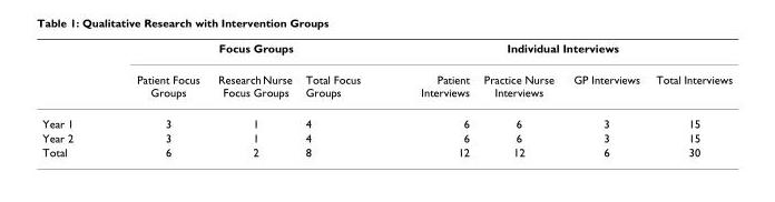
<table><thead><tr><td rowspan="2"></td><td colspan="3">Focus Groups</td><td colspan="4">Individual Interviews</td></tr><tr><td>Patient Focus Groups</td><td>Research Nurse Focus Groups</td><td>Total Focus Groups</td><td>Patient Interviews</td><td>Practice Nurse Interviews</td><td>GP Interviews</td><td>Total Interviews</td></tr></thead><tbody><tr><td>Year 1</td><td>3</td><td>1</td><td>4</td><td>6</td><td>6</td><td>3</td><td>15</td></tr><tr><td>Year 2</td><td>3</td><td>1</td><td>4</td><td>6</td><td>6</td><td>3</td><td>15</td></tr><tr><td>Total</td><td>6</td><td>2</td><td>8</td><td>12</td><td>12</td><td>6</td><td>30</td></tr></tbody></table>